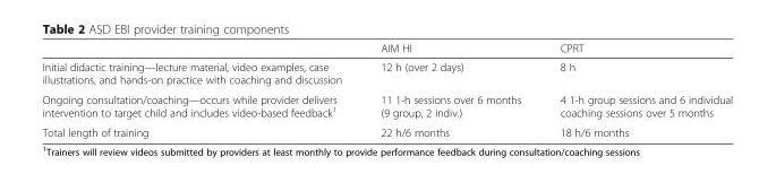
<table><thead><tr><td></td><td>AIM HI</td><td>CPRT</td></tr></thead><tbody><tr><td>Initial didactic training—lecture material, video examples, case illustrations, and hands-on practice with coaching and discussion</td><td>12 h (over 2 days)</td><td>8 h</td></tr><tr><td>Ongoing consultation/coaching—occurs while provider delivers intervention to target child and includes video-based feedback<sup>1</sup></td><td>11 1-h sessions over 6 months (9 group, 2 indiv.)</td><td>4 1-h group sessions and 6 individual coaching sessions over 5 months</td></tr><tr><td>Total length of training</td><td>22 h/6 months</td><td>18 h/6 months</td></tr></tbody></table>